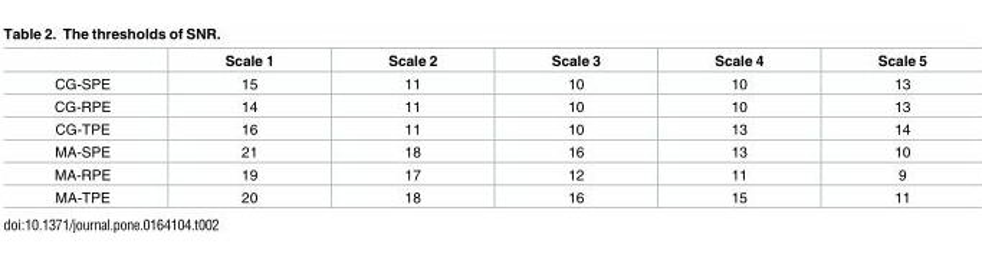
<table><thead><tr><td></td><td>Scale 1</td><td>Scale 2</td><td>Scale 3</td><td>Scale 4</td><td>Scale 5</td></tr></thead><tbody><tr><td>CG-SPE</td><td>15</td><td>11</td><td>10</td><td>10</td><td>13</td></tr><tr><td>CG-RPE</td><td>14</td><td>11</td><td>10</td><td>10</td><td>13</td></tr><tr><td>CG-TPE</td><td>16</td><td>11</td><td>10</td><td>13</td><td>14</td></tr><tr><td>MA-SPE</td><td>21</td><td>18</td><td>16</td><td>13</td><td>10</td></tr><tr><td>MA-RPE</td><td>19</td><td>17</td><td>12</td><td>11</td><td>9</td></tr><tr><td>MA-TPE</td><td>20</td><td>18</td><td>16</td><td>15</td><td>11</td></tr></tbody></table>